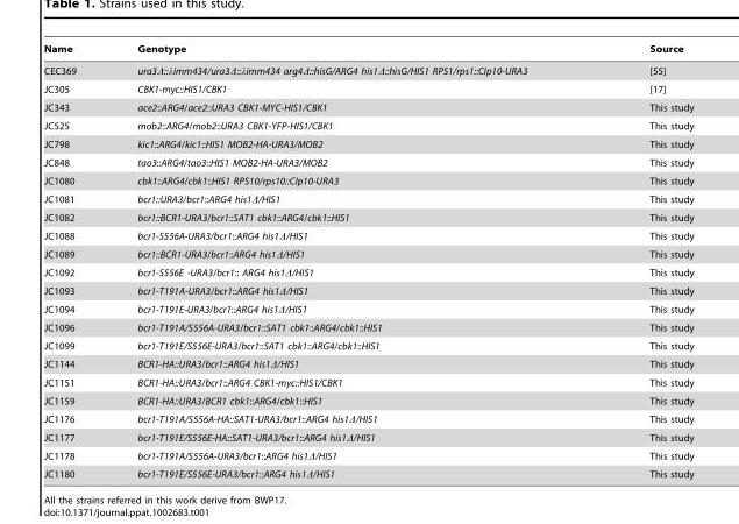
<table><thead><tr><td>Name</td><td>Genotype</td><td>Source</td></tr></thead><tbody><tr><td>CEC369</td><td>ura3Δ::λimm434/ura3Δ::λimm434 arg4Δ::hisG/ARG4 his1Δ::hisG/HIS1 RPS1/rps1::CIp10-URA3</td><td>[55]</td></tr><tr><td>JC305</td><td>CBK1-myc::HIS1/CBK1</td><td>[17]</td></tr><tr><td>JC343</td><td>ace2::ARG4/ace2::URA3 CBK1-MYC-HIS1/CBK1</td><td>This study</td></tr><tr><td>JC525</td><td>mob2::ARG4/mob2::URA3 CBK1-YFP-HIS1/CBK1</td><td>This study</td></tr><tr><td>JC798</td><td>kic1::ARG4/kic1::HIS1 MOB2-HA-URA3/MOB2</td><td>This study</td></tr><tr><td>JC848</td><td>tao3::ARG4/tao3::HIS1 MOB2-HA-URA3/MOB2</td><td>This study</td></tr><tr><td>JC1080</td><td>cbk1::ARG4/cbk1::HIS1 RPS10/rps10::CIp10-URA3</td><td>This study</td></tr><tr><td>JC1081</td><td>bcr1::URA3/bcr1::ARG4 his1Δ/HIS1</td><td>This study</td></tr><tr><td>JC1082</td><td>bcr1::BCR1-URA3/bcr1::SAT1 cbk1::ARG4/cbk1::HIS1</td><td>This study</td></tr><tr><td>JC1088</td><td>bcr1-S556A-URA3/bcr1::ARG4 his1Δ/HIS1</td><td>This study</td></tr><tr><td>JC1089</td><td>bcr1::BCR1-URA3/bcr1::ARG4 his1Δ/HIS1</td><td>This study</td></tr><tr><td>JC1092</td><td>bcr1-S556E -URA3/bcr1:: ARG4 his1Δ/HIS1</td><td>This study</td></tr><tr><td>JC1093</td><td>bcr1-T191A-URA3/bcr1::ARG4 his1Δ/HIS1</td><td>This study</td></tr><tr><td>JC1094</td><td>bcr1-T191E-URA3/bcr1::ARG4 his1Δ/HIS1</td><td>This study</td></tr><tr><td>JC1096</td><td>bcr1-T191A/S556A-URA3/bcr1::SAT1 cbk1::ARG4/cbk1::HIS1</td><td>This study</td></tr><tr><td>JC1099</td><td>bcr1-T191E/S556E-URA3/bcr1::SAT1 cbk1::ARG4/cbk1::HIS1</td><td>This study</td></tr><tr><td>JC1144</td><td>BCR1-HA::URA3/bcr1::ARG4 his1Δ/HIS1</td><td>This study</td></tr><tr><td>JC1151</td><td>BCR1-HA::URA3/bcr1::ARG4 CBK1-myc::HIS1/CBK1</td><td>This study</td></tr><tr><td>JC1159</td><td>BCR1-HA::URA3/BCR1 cbk1::ARG4/cbk1::HIS1</td><td>This study</td></tr><tr><td>JC1176</td><td>bcr1-T191A/S556A-HA::SAT1-URA3/bcr1::ARG4 his1Δ/HIS1</td><td>This study</td></tr><tr><td>JC1177</td><td>bcr1-T191E/S556E-HA::SAT1-URA3/bcr1::ARG4 his1Δ/HIS1</td><td>This study</td></tr><tr><td>JC1178</td><td>bcr1-T191A/S556A-URA3/bcr1::ARG4 his1Δ/HIS1</td><td>This study</td></tr><tr><td>JC1180</td><td>bcr1-T191E/S556E-URA3/bcr1::ARG4 his1Δ/HIS1</td><td>This study</td></tr></tbody></table>